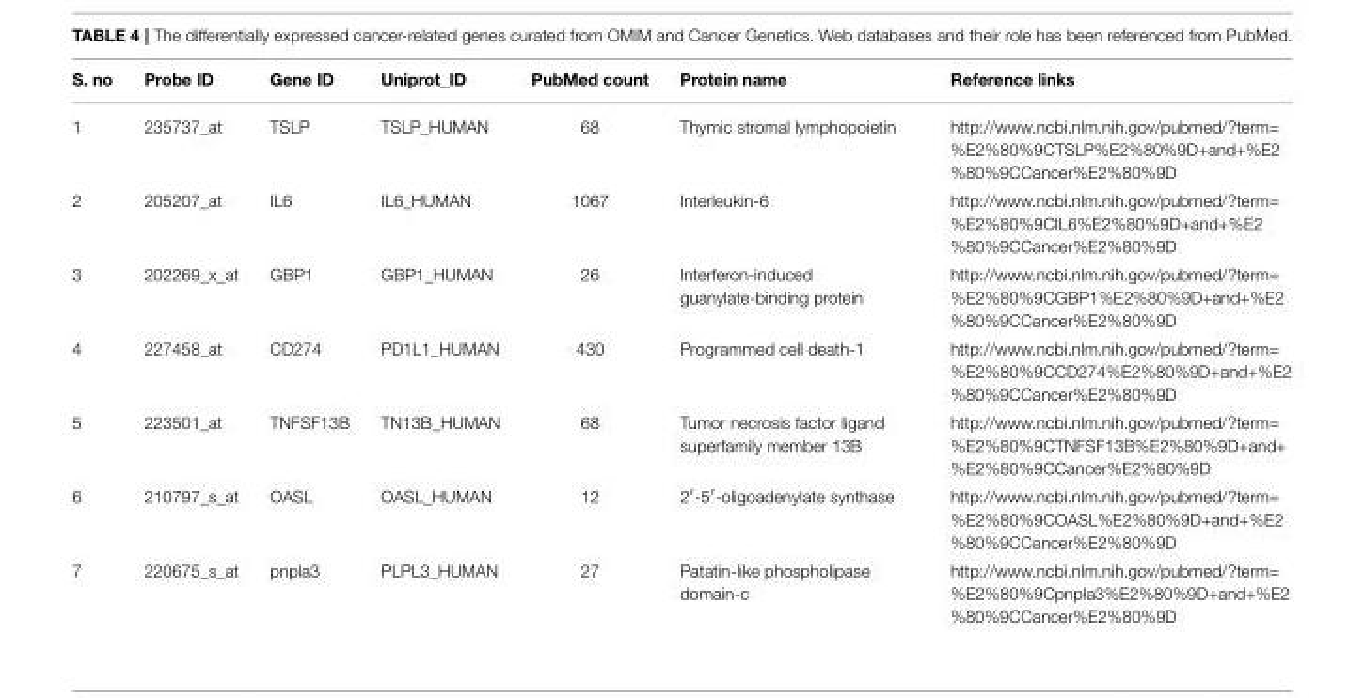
<table><thead><tr><td>S. no</td><td>Probe ID</td><td>Gene ID</td><td>Uniprot_ID</td><td>PubMed count</td><td>Protein name</td><td>Reference links</td></tr></thead><tbody><tr><td>1</td><td>235737_at</td><td>TSLP</td><td>TSLP_HUMAN</td><td>68</td><td>Thymic stromal lymphopoietin</td><td>http://www.ncbi.nlm.nih.gov/pubmed/?term= %E2%80%9CTSLP%E2%80%9D+and+%E2 %80%9CCancer%E2%80%9D</td></tr><tr><td>2</td><td>205207_at</td><td>IL6</td><td>IL6_HUMAN</td><td>1067</td><td>Interleukin-6</td><td>http://www.ncbi.nlm.nih.gov/pubmed/?term= %E2%80%9CIL6%E2%80%9D+and+%E2 %80%9CCancer%E2%80%9D</td></tr><tr><td>3</td><td>202269_x_at</td><td>GBP1</td><td>GBP1_HUMAN</td><td>26</td><td>Interferon-induced guanylate-binding protein</td><td>http://www.ncbi.nlm.nih.gov/pubmed/?term= %E2%80%9CGBP1%E2%80%9D+and+%E2 %80%9CCancer%E2%80%9D</td></tr><tr><td>4</td><td>227458_at</td><td>CD274</td><td>PD1L1_HUMAN</td><td>430</td><td>Programmed cell death-1</td><td>http://www.ncbi.nlm.nih.gov/pubmed/?term= %E2%80%9CCD274%E2%80%9D+and+%E2 %80%9CCancer%E2%80%9D</td></tr><tr><td>5</td><td>223501_at</td><td>TNFSF13B</td><td>TN13B_HUMAN</td><td>68</td><td>Tumor necrosis factor ligand superfamily member 13B</td><td>http://www.ncbi.nlm.nih.gov/pubmed/?term= %E2%80%9CTNFSF13B%E2%80%9D+and+ %E2%80%9CCancer%E2%80%9D</td></tr><tr><td>6</td><td>210797_s_at</td><td>OASL</td><td>OASL_HUMAN</td><td>12</td><td>2′-5′-oligoadenylate synthase</td><td>http://www.ncbi.nlm.nih.gov/pubmed/?term= %E2%80%9COASL%E2%80%9D+and+%E2 %80%9CCancer%E2%80%9D</td></tr><tr><td>7</td><td>220675_s_at</td><td>pnpla3</td><td>PLPL3_HUMAN</td><td>27</td><td>Patatin-like phospholipase domain-c</td><td>http://www.ncbi.nlm.nih.gov/pubmed/?term= %E2%80%9Cpnpla3%E2%80%9D+and+%E2 %80%9CCancer%E2%80%9D</td></tr></tbody></table>